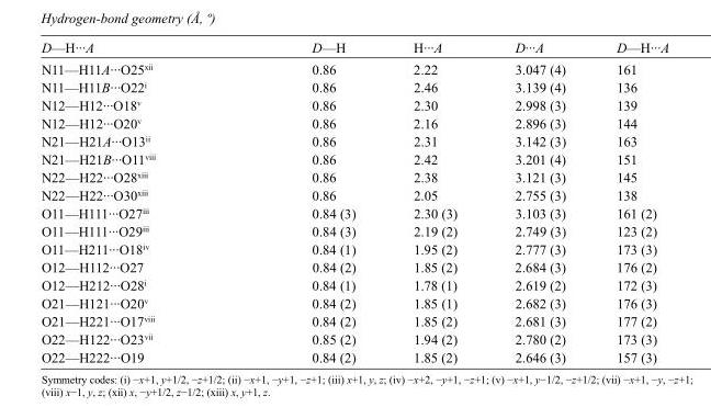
<table><tbody><tr><td>D—H···A</td><td>D—H</td><td>H···A</td><td>D···A</td><td>D—H···A</td></tr><tr><td>N11—H11A···O25<sup>xii</sup></td><td>0.86</td><td>2.22</td><td>3.047 (4)</td><td>161</td></tr><tr><td>N11—H11B···O22<sup>i</sup></td><td>0.86</td><td>2.46</td><td>3.139 (4)</td><td>136</td></tr><tr><td>N12—H12···O18<sup>v</sup></td><td>0.86</td><td>2.30</td><td>2.998 (3)</td><td>139</td></tr><tr><td>N12—H12···O20<sup>v</sup></td><td>0.86</td><td>2.16</td><td>2.896 (3)</td><td>144</td></tr><tr><td>N21—H21A···O13<sup>ii</sup></td><td>0.86</td><td>2.31</td><td>3.142 (3)</td><td>163</td></tr><tr><td>N21—H21B···O11<sup>viii</sup></td><td>0.86</td><td>2.42</td><td>3.201 (4)</td><td>151</td></tr><tr><td>N22—H22···O28<sup>xiii</sup></td><td>0.86</td><td>2.38</td><td>3.121 (3)</td><td>145</td></tr><tr><td>N22—H22···O30<sup>xiii</sup></td><td>0.86</td><td>2.05</td><td>2.755 (3)</td><td>138</td></tr><tr><td>O11—H111···O27<sup>iii</sup></td><td>0.84 (3)</td><td>2.30 (3)</td><td>3.103 (3)</td><td>161 (2)</td></tr><tr><td>O11—H111···O29<sup>iii</sup></td><td>0.84 (3)</td><td>2.19 (2)</td><td>2.749 (3)</td><td>123 (2)</td></tr><tr><td>O11—H211···O18<sup>iv</sup></td><td>0.84 (1)</td><td>1.95 (2)</td><td>2.777 (3)</td><td>173 (3)</td></tr><tr><td>O12—H112···O27</td><td>0.84 (2)</td><td>1.85 (2)</td><td>2.684 (3)</td><td>176 (2)</td></tr><tr><td>O12—H212···O28<sup>i</sup></td><td>0.84 (1)</td><td>1.78 (1)</td><td>2.619 (2)</td><td>172 (3)</td></tr><tr><td>O21—H121···O20<sup>v</sup></td><td>0.84 (2)</td><td>1.85 (1)</td><td>2.682 (3)</td><td>176 (3)</td></tr><tr><td>O21—H221···O17<sup>viii</sup></td><td>0.84 (2)</td><td>1.85 (2)</td><td>2.681 (3)</td><td>177 (2)</td></tr><tr><td>O22—H122···O23<sup>vii</sup></td><td>0.85 (2)</td><td>1.94 (2)</td><td>2.780 (2)</td><td>173 (3)</td></tr><tr><td>O22—H222···O19</td><td>0.84 (2)</td><td>1.85 (2)</td><td>2.646 (3)</td><td>157 (3)</td></tr></tbody></table>